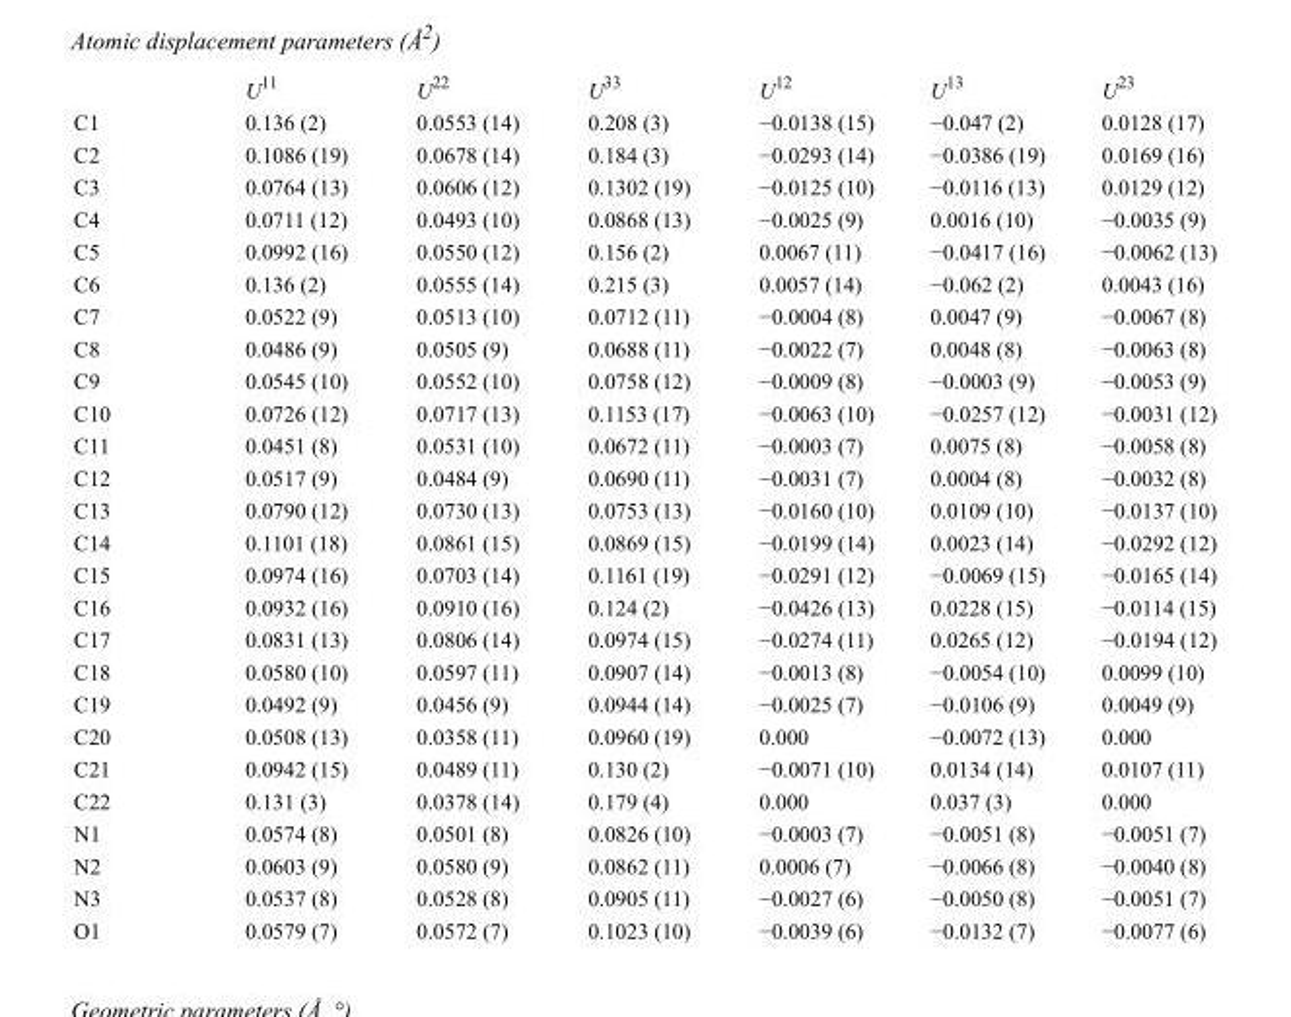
<table><thead><tr><td></td><td>U<sup>11</sup></td><td>U<sup>22</sup></td><td>U<sup>33</sup></td><td>U<sup>12</sup></td><td>U<sup>13</sup></td><td>U<sup>23</sup></td></tr></thead><tbody><tr><td>C1</td><td>0.136 (2)</td><td>0.0553 (14)</td><td>0.208 (3)</td><td>−0.0138 (15)</td><td>−0.047 (2)</td><td>0.0128 (17)</td></tr><tr><td>C2</td><td>0.1086 (19)</td><td>0.0678 (14)</td><td>0.184 (3)</td><td>−0.0293 (14)</td><td>−0.0386 (19)</td><td>0.0169 (16)</td></tr><tr><td>C3</td><td>0.0764 (13)</td><td>0.0606 (12)</td><td>0.1302 (19)</td><td>−0.0125 (10)</td><td>−0.0116 (13)</td><td>0.0129 (12)</td></tr><tr><td>C4</td><td>0.0711 (12)</td><td>0.0493 (10)</td><td>0.0868 (13)</td><td>−0.0025 (9)</td><td>0.0016 (10)</td><td>−0.0035 (9)</td></tr><tr><td>C5</td><td>0.0992 (16)</td><td>0.0550 (12)</td><td>0.156 (2)</td><td>0.0067 (11)</td><td>−0.0417 (16)</td><td>−0.0062 (13)</td></tr><tr><td>C6</td><td>0.136 (2)</td><td>0.0555 (14)</td><td>0.215 (3)</td><td>0.0057 (14)</td><td>−0.062 (2)</td><td>0.0043 (16)</td></tr><tr><td>C7</td><td>0.0522 (9)</td><td>0.0513 (10)</td><td>0.0712 (11)</td><td>−0.0004 (8)</td><td>0.0047 (9)</td><td>−0.0067 (8)</td></tr><tr><td>C8</td><td>0.0486 (9)</td><td>0.0505 (9)</td><td>0.0688 (11)</td><td>−0.0022 (7)</td><td>0.0048 (8)</td><td>−0.0063 (8)</td></tr><tr><td>C9</td><td>0.0545 (10)</td><td>0.0552 (10)</td><td>0.0758 (12)</td><td>−0.0009 (8)</td><td>−0.0003 (9)</td><td>−0.0053 (9)</td></tr><tr><td>C10</td><td>0.0726 (12)</td><td>0.0717 (13)</td><td>0.1153 (17)</td><td>−0.0063 (10)</td><td>−0.0257 (12)</td><td>−0.0031 (12)</td></tr><tr><td>C11</td><td>0.0451 (8)</td><td>0.0531 (10)</td><td>0.0672 (11)</td><td>−0.0003 (7)</td><td>0.0075 (8)</td><td>−0.0058 (8)</td></tr><tr><td>C12</td><td>0.0517 (9)</td><td>0.0484 (9)</td><td>0.0690 (11)</td><td>−0.0031 (7)</td><td>0.0004 (8)</td><td>−0.0032 (8)</td></tr><tr><td>C13</td><td>0.0790 (12)</td><td>0.0730 (13)</td><td>0.0753 (13)</td><td>−0.0160 (10)</td><td>0.0109 (10)</td><td>−0.0137 (10)</td></tr><tr><td>C14</td><td>0.1101 (18)</td><td>0.0861 (15)</td><td>0.0869 (15)</td><td>−0.0199 (14)</td><td>0.0023 (14)</td><td>−0.0292 (12)</td></tr><tr><td>C15</td><td>0.0974 (16)</td><td>0.0703 (14)</td><td>0.1161 (19)</td><td>−0.0291 (12)</td><td>−0.0069 (15)</td><td>−0.0165 (14)</td></tr><tr><td>C16</td><td>0.0932 (16)</td><td>0.0910 (16)</td><td>0.124 (2)</td><td>−0.0426 (13)</td><td>0.0228 (15)</td><td>−0.0114 (15)</td></tr><tr><td>C17</td><td>0.0831 (13)</td><td>0.0806 (14)</td><td>0.0974 (15)</td><td>−0.0274 (11)</td><td>0.0265 (12)</td><td>−0.0194 (12)</td></tr><tr><td>C18</td><td>0.0580 (10)</td><td>0.0597 (11)</td><td>0.0907 (14)</td><td>−0.0013 (8)</td><td>−0.0054 (10)</td><td>0.0099 (10)</td></tr><tr><td>C19</td><td>0.0492 (9)</td><td>0.0456 (9)</td><td>0.0944 (14)</td><td>−0.0025 (7)</td><td>−0.0106 (9)</td><td>0.0049 (9)</td></tr><tr><td>C20</td><td>0.0508 (13)</td><td>0.0358 (11)</td><td>0.0960 (19)</td><td>0.000</td><td>−0.0072 (13)</td><td>0.000</td></tr><tr><td>C21</td><td>0.0942 (15)</td><td>0.0489 (11)</td><td>0.130 (2)</td><td>−0.0071 (10)</td><td>0.0134 (14)</td><td>0.0107 (11)</td></tr><tr><td>C22</td><td>0.131 (3)</td><td>0.0378 (14)</td><td>0.179 (4)</td><td>0.000</td><td>0.037 (3)</td><td>0.000</td></tr><tr><td>N1</td><td>0.0574 (8)</td><td>0.0501 (8)</td><td>0.0826 (10)</td><td>−0.0003 (7)</td><td>−0.0051 (8)</td><td>−0.0051 (7)</td></tr><tr><td>N2</td><td>0.0603 (9)</td><td>0.0580 (9)</td><td>0.0862 (11)</td><td>0.0006 (7)</td><td>−0.0066 (8)</td><td>−0.0040 (8)</td></tr><tr><td>N3</td><td>0.0537 (8)</td><td>0.0528 (8)</td><td>0.0905 (11)</td><td>−0.0027 (6)</td><td>−0.0050 (8)</td><td>−0.0051 (7)</td></tr><tr><td>O1</td><td>0.0579 (7)</td><td>0.0572 (7)</td><td>0.1023 (10)</td><td>−0.0039 (6)</td><td>−0.0132 (7)</td><td>−0.0077 (6)</td></tr></tbody></table>